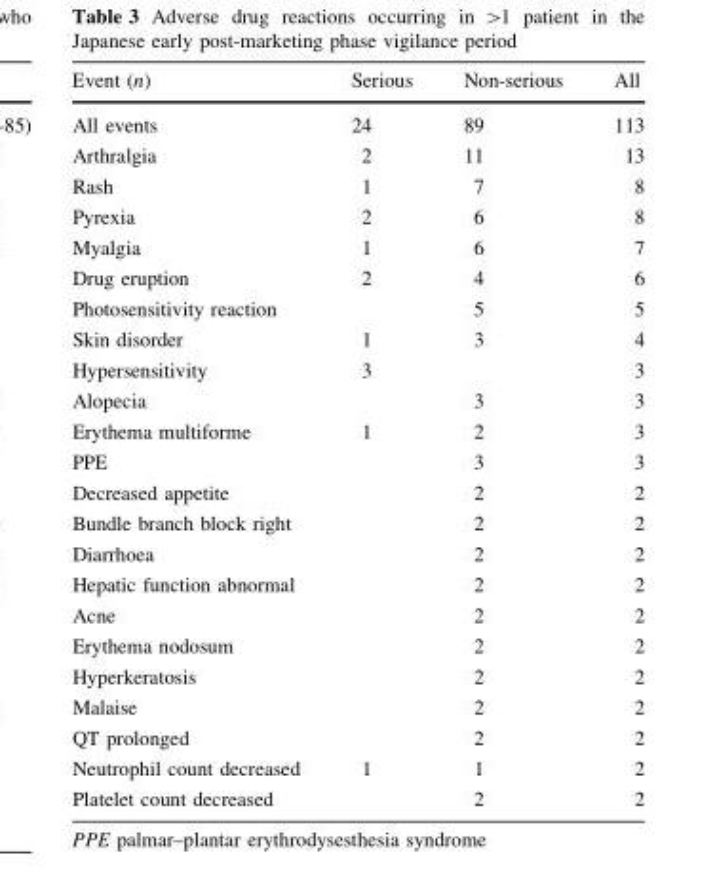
<table><thead><tr><td>Event (n)</td><td>Serious</td><td>Non-serious</td><td>All</td></tr></thead><tbody><tr><td>All events</td><td>24</td><td>89</td><td>113</td></tr><tr><td>Arthralgia</td><td>2</td><td>11</td><td>13</td></tr><tr><td>Rash</td><td>1</td><td>7</td><td>8</td></tr><tr><td>Pyrexia</td><td>2</td><td>6</td><td>8</td></tr><tr><td>Myalgia</td><td>1</td><td>6</td><td>7</td></tr><tr><td>Drug eruption</td><td>2</td><td>4</td><td>6</td></tr><tr><td>Photosensitivity reaction</td><td></td><td>5</td><td>5</td></tr><tr><td>Skin disorder</td><td>1</td><td>3</td><td>4</td></tr><tr><td>Hypersensitivity</td><td>3</td><td></td><td>3</td></tr><tr><td>Alopecia</td><td></td><td>3</td><td>3</td></tr><tr><td>Erythema multiforme</td><td>1</td><td>2</td><td>3</td></tr><tr><td>PPE</td><td></td><td>3</td><td>3</td></tr><tr><td>Decreased appetite</td><td></td><td>2</td><td>2</td></tr><tr><td>Bundle branch block right</td><td></td><td>2</td><td>2</td></tr><tr><td>Diarrhoea</td><td></td><td>2</td><td>2</td></tr><tr><td>Hepatic function abnormal</td><td></td><td>2</td><td>2</td></tr><tr><td>Acne</td><td></td><td>2</td><td>2</td></tr><tr><td>Erythema nodosum</td><td></td><td>2</td><td>2</td></tr><tr><td>Hyperkeratosis</td><td></td><td>2</td><td>2</td></tr><tr><td>Malaise</td><td></td><td>2</td><td>2</td></tr><tr><td>QT prolonged</td><td></td><td>2</td><td>2</td></tr><tr><td>Neutrophil count decreased</td><td>1</td><td>1</td><td>2</td></tr><tr><td>Platelet count decreased</td><td></td><td>2</td><td>2</td></tr></tbody></table>